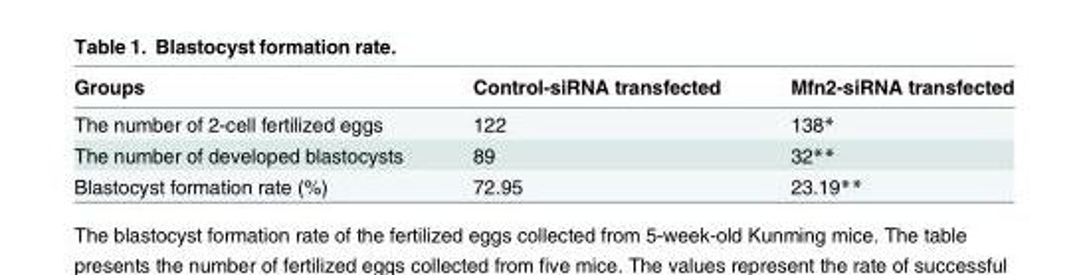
<table><thead><tr><td>Groups</td><td>Control-siRNA transfected</td><td>Mfn2-siRNA transfected</td></tr></thead><tbody><tr><td>The number of 2-cell fertilized eggs</td><td>122</td><td>138*</td></tr><tr><td>The number of developed blastocysts</td><td>89</td><td>32**</td></tr><tr><td>Blastocyst formation rate (%)</td><td>72.95</td><td>23.19**</td></tr></tbody></table>